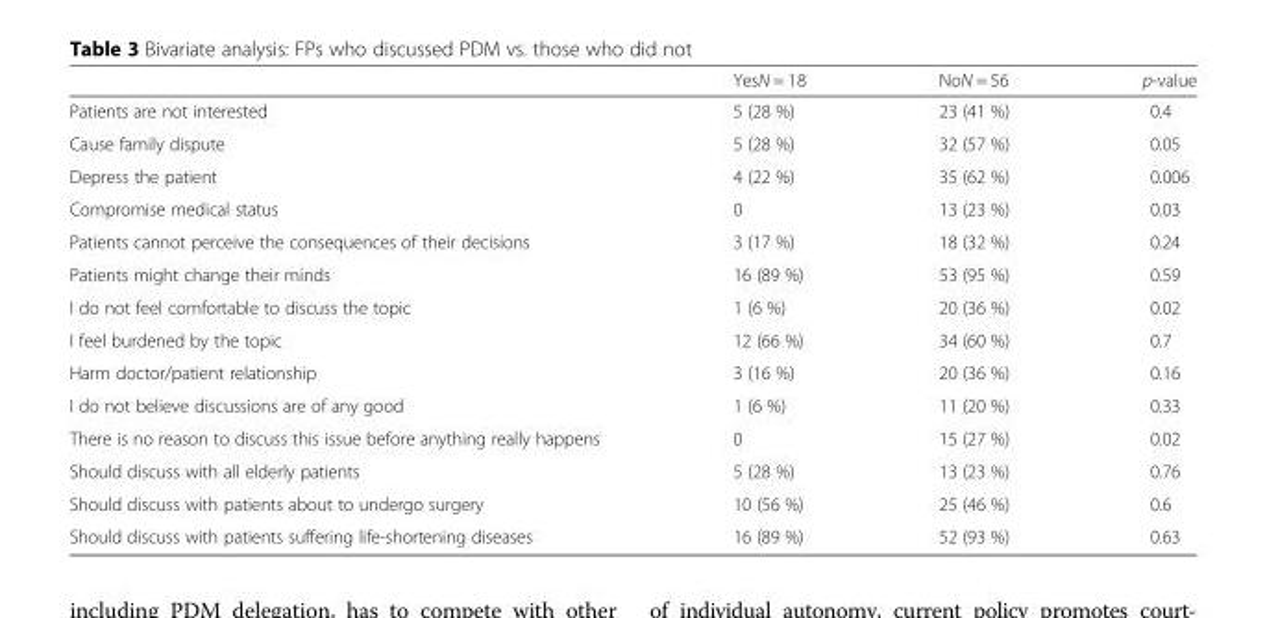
<table><thead><tr><td></td><td>YesN = 18</td><td>NoN = 56</td><td>p-value</td></tr></thead><tbody><tr><td>Patients are not interested</td><td>5 (28 %)</td><td>23 (41 %)</td><td>0.4</td></tr><tr><td>Cause family dispute</td><td>5 (28 %)</td><td>32 (57 %)</td><td>0.05</td></tr><tr><td>Depress the patient</td><td>4 (22 %)</td><td>35 (62 %)</td><td>0.006</td></tr><tr><td>Compromise medical status</td><td>0</td><td>13 (23 %)</td><td>0.03</td></tr><tr><td>Patients cannot perceive the consequences of their decisions</td><td>3 (17 %)</td><td>18 (32 %)</td><td>0.24</td></tr><tr><td>Patients might change their minds</td><td>16 (89 %)</td><td>53 (95 %)</td><td>0.59</td></tr><tr><td>I do not feel comfortable to discuss the topic</td><td>1 (6 %)</td><td>20 (36 %)</td><td>0.02</td></tr><tr><td>I feel burdened by the topic</td><td>12 (66 %)</td><td>34 (60 %)</td><td>0.7</td></tr><tr><td>Harm doctor/patient relationship</td><td>3 (16 %)</td><td>20 (36 %)</td><td>0.16</td></tr><tr><td>I do not believe discussions are of any good</td><td>1 (6 %)</td><td>11 (20 %)</td><td>0.33</td></tr><tr><td>There is no reason to discuss this issue before anything really happens</td><td>0</td><td>15 (27 %)</td><td>0.02</td></tr><tr><td>Should discuss with all elderly patients</td><td>5 (28 %)</td><td>13 (23 %)</td><td>0.76</td></tr><tr><td>Should discuss with patients about to undergo surgery</td><td>10 (56 %)</td><td>25 (46 %)</td><td>0.6</td></tr><tr><td>Should discuss with patients suffering life-shortening diseases</td><td>16 (89 %)</td><td>52 (93 %)</td><td>0.63</td></tr></tbody></table>